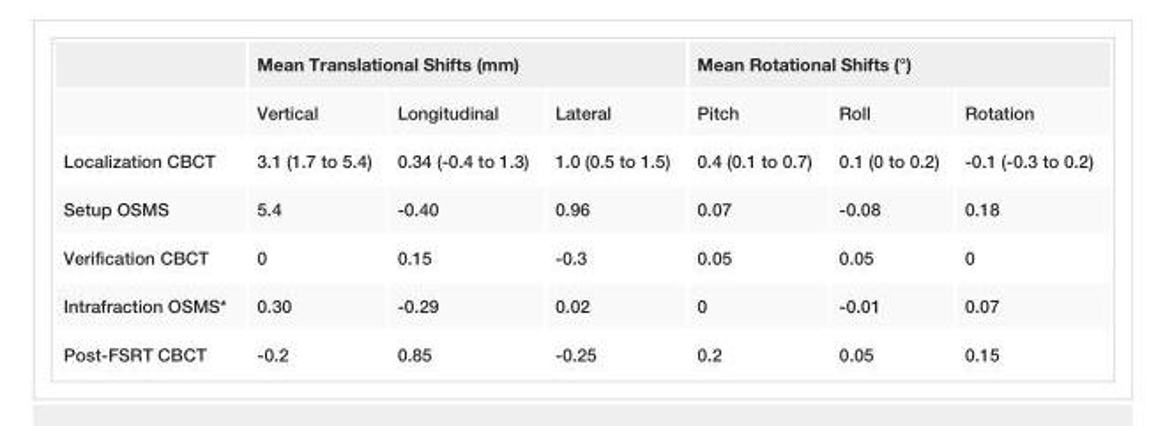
<table><thead><tr><td rowspan="2"></td><td colspan="3">Mean Translational Shifts (mm)</td><td colspan="3">Mean Rotational Shifts (°)</td></tr><tr><td>Vertical</td><td>Longitudinal</td><td>Lateral</td><td>Pitch</td><td>Roll</td><td>Rotation</td></tr></thead><tbody><tr><td>Localization CBCT</td><td>3.1 (1.7 to 5.4)</td><td>0.34 (-0.4 to 1.3)</td><td>1.0 (0.5 to 1.5)</td><td>0.4 (0.1 to 0.7)</td><td>0.1 (0 to 0.2)</td><td>-0.1 (-0.3 to 0.2)</td></tr><tr><td>Setup OSMS</td><td>5.4</td><td>-0.40</td><td>0.96</td><td>0.07</td><td>-0.08</td><td>0.18</td></tr><tr><td>Verification CBCT</td><td>0</td><td>0.15</td><td>-0.3</td><td>0.05</td><td>0.05</td><td>0</td></tr><tr><td>Intrafraction OSMS*</td><td>0.30</td><td>-0.29</td><td>0.02</td><td>0</td><td>-0.01</td><td>0.07</td></tr><tr><td>Post-FSRT CBCT</td><td>-0.2</td><td>0.85</td><td>-0.25</td><td>0.2</td><td>0.05</td><td>0.15</td></tr></tbody></table>